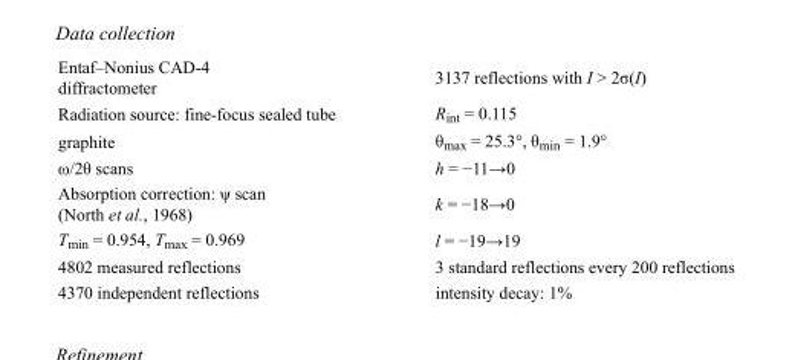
<table><tbody><tr><td>Entaf–Nonius CAD-4 diffractometer</td><td>3137 reflections with I &gt; 2σ(I)</td></tr><tr><td>Radiation source: fine-focus sealed tube</td><td>R<sub>int</sub> = 0.115</td></tr><tr><td>graphite</td><td>θ<sub>max</sub> = 25.3°, θ<sub>min</sub> = 1.9°</td></tr><tr><td>ω/2θ scans</td><td>h = −11→0</td></tr><tr><td>Absorption correction: ψ scan (North et al., 1968)</td><td>k = −18→0</td></tr><tr><td>T<sub>min</sub> = 0.954, T<sub>max</sub> = 0.969</td><td>l = −19→19</td></tr><tr><td>4802 measured reflections</td><td>3 standard reflections every 200 reflections</td></tr><tr><td>4370 independent reflections</td><td>intensity decay: 1%</td></tr></tbody></table>